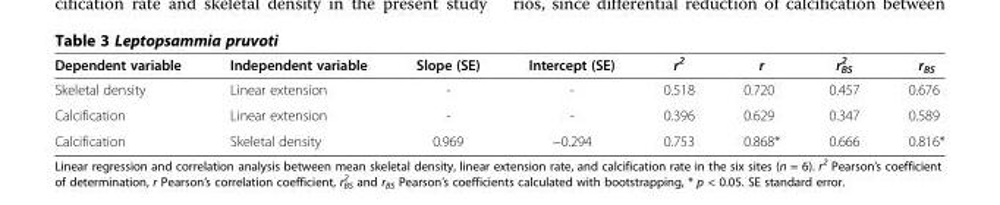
<table><thead><tr><td>Dependent variable</td><td>Independent variable</td><td>Slope (SE)</td><td>Intercept (SE)</td><td>r<sup>2</sup></td><td>r</td><td>r<sup>2</sup> <sub>BS</sub></td><td>r<sub>BS</sub></td></tr></thead><tbody><tr><td>Skeletal density</td><td>Linear extension</td><td>-</td><td>-</td><td>0.518</td><td>0.720</td><td>0.457</td><td>0.676</td></tr><tr><td>Calcification</td><td>Linear extension</td><td>-</td><td>-</td><td>0.396</td><td>0.629</td><td>0.347</td><td>0.589</td></tr><tr><td>Calcification</td><td>Skeletal density</td><td>0.969</td><td>−0.294</td><td>0.753</td><td>0.868*</td><td>0.666</td><td>0.816*</td></tr></tbody></table>